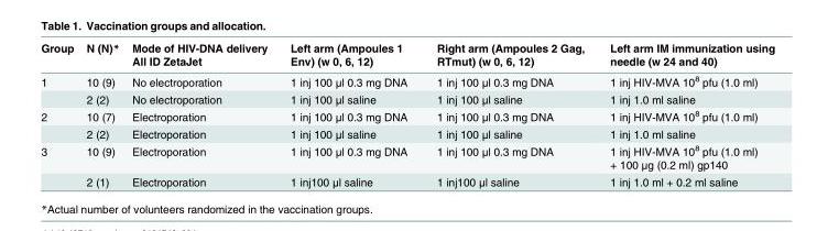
<table><thead><tr><td>Group</td><td>N (N)*</td><td>Mode of HIV-DNA delivery All ID ZetaJet</td><td>Left arm (Ampoules 1 Env) (w 0, 6, 12)</td><td>Right arm (Ampoules 2 Gag, RTmut) (w 0, 6, 12)</td><td>Left arm IM immunization using needle (w 24 and 40)</td></tr></thead><tbody><tr><td rowspan="2">1</td><td>10 (9)</td><td>No electroporation</td><td>1 inj 100 μl 0.3 mg DNA</td><td>1 inj 100 μl 0.3 mg DNA</td><td>1 inj HIV-MVA 10<sup>8</sup> pfu (1.0 ml)</td></tr><tr><td>2 (2)</td><td>No electroporation</td><td>1 inj 100 μl saline</td><td>1 inj 100 μl saline</td><td>1 inj 1.0 ml saline</td></tr><tr><td rowspan="2">2</td><td>10 (7)</td><td>Electroporation</td><td>1 inj 100 μl 0.3 mg DNA</td><td>1 inj 100 μl 0.3 mg DNA</td><td>1 inj HIV-MVA 10<sup>8</sup> pfu (1.0 ml)</td></tr><tr><td>2 (2)</td><td>Electroporation</td><td>1 inj 100 μl saline</td><td>1 inj 100 μl saline</td><td>1 inj 1.0 ml saline</td></tr><tr><td rowspan="2">3</td><td>10 (9)</td><td>Electroporation</td><td>1 inj 100 μl 0.3 mg DNA</td><td>1 inj 100 μl 0.3 mg DNA</td><td>1 inj HIV-MVA 10<sup>8</sup> pfu (1.0 ml) + 100 μg (0.2 ml) gp140</td></tr><tr><td>2 (1)</td><td>Electroporation</td><td>1 inj100 μl saline</td><td>1 inj100 μl saline</td><td>1 inj 1.0 ml + 0.2 ml saline</td></tr></tbody></table>